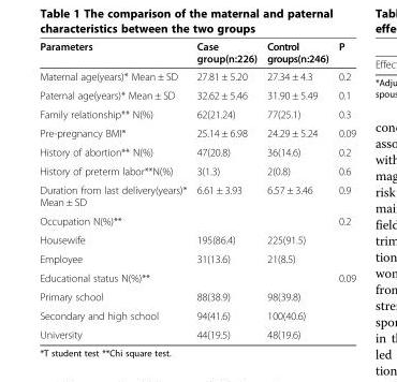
<table><thead><tr><td>Parameters</td><td>Case group(n:226)</td><td>Control groups(n:246)</td><td>P</td></tr></thead><tbody><tr><td>Maternal age(years)* Mean ± SD</td><td>27.81 ± 5.20</td><td>27.34 ± 4.3</td><td>0.2</td></tr><tr><td>Paternal age(years)* Mean ± SD</td><td>32.62 ± 5.46</td><td>31.90 ± 5.49</td><td>0.1</td></tr><tr><td>Family relationship** N(%)</td><td>62(21.24)</td><td>77(25.1)</td><td>0.3</td></tr><tr><td>Pre-pregnancy BMI*</td><td>25.14 ± 6.98</td><td>24.29 ± 5.24</td><td>0.09</td></tr><tr><td>History of abortion** N(%)</td><td>47(20.8)</td><td>36(14.6)</td><td>0.2</td></tr><tr><td>History of preterm labor**N(%)</td><td>3(1.3)</td><td>2(0.8)</td><td>0.6</td></tr><tr><td>Duration from last delivery(years)* Mean ± SD</td><td>6.61 ± 3.93</td><td>6.57 ± 3.46</td><td>0.9</td></tr><tr><td>Occupation N(%)**</td><td></td><td></td><td>0.2</td></tr><tr><td>Housewife</td><td>195(86.4)</td><td>225(91.5)</td><td></td></tr><tr><td>Employee</td><td>31(13.6)</td><td>21(8.5)</td><td></td></tr><tr><td>Educational status N(%)**</td><td></td><td></td><td>0.09</td></tr><tr><td>Primary school</td><td>88(38.9)</td><td>98(39.8)</td><td></td></tr><tr><td>Secondary and high school</td><td>94(41.6)</td><td>100(40.6)</td><td></td></tr><tr><td>University</td><td>44(19.5)</td><td>48(19.6)</td><td></td></tr></tbody></table>